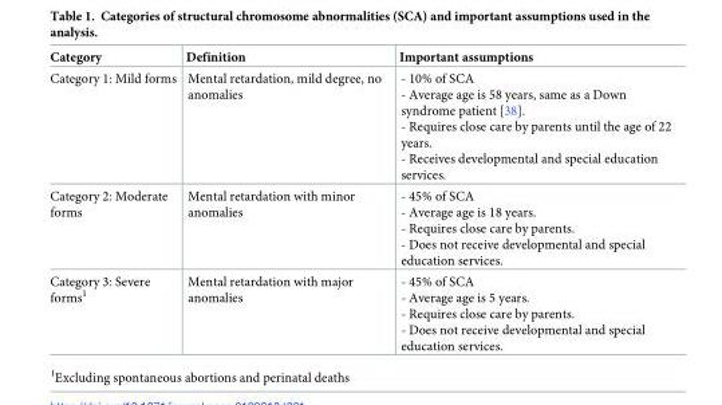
<table><thead><tr><td>Category</td><td>Definition</td><td>Important assumptions</td></tr></thead><tbody><tr><td>Category 1: Mild forms</td><td>Mental retardation, mild degree, no anomalies</td><td>- 10% of SCA - Average age is 58 years, same as a Down syndrome patient [38]. - Requires close care by parents until the age of 22 years. - Receives developmental and special education services.</td></tr><tr><td>Category 2: Moderate forms</td><td>Mental retardation with minor anomalies</td><td>- 45% of SCA - Average age is 18 years. - Requires close care by parents. - Does not receive developmental and special education services.</td></tr><tr><td>Category 3: Severe forms<sup>1</sup></td><td>Mental retardation with major anomalies</td><td>- 45% of SCA - Average age is 5 years. - Requires close care by parents. - Does not receive developmental and special education services.</td></tr></tbody></table>